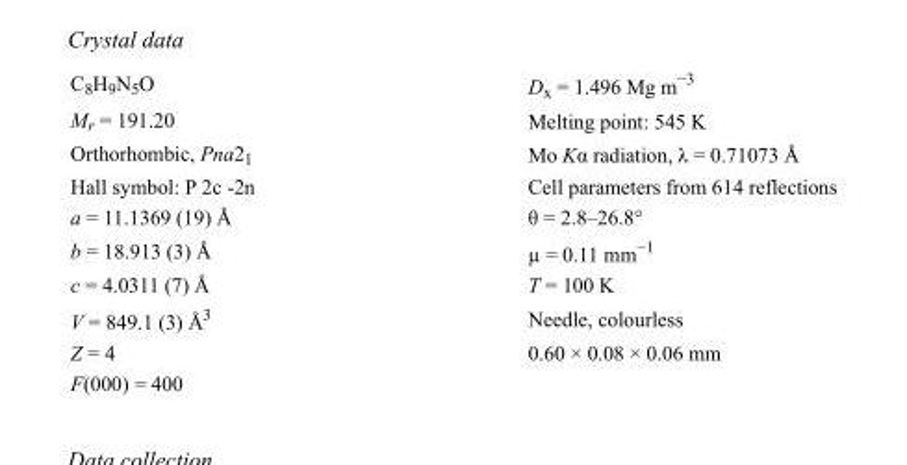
<table><tbody><tr><td>C<sub>8</sub>H<sub>9</sub>N<sub>5</sub>O</td><td>D<sub>x</sub> = 1.496 Mg m<sup>−3</sup></td></tr><tr><td>M<sub>r</sub> = 191.20</td><td>Melting point: 545 K</td></tr><tr><td>Orthorhombic, Pna2<sub>1</sub></td><td>Mo Kα radiation, λ = 0.71073 Å</td></tr><tr><td>Hall symbol: P 2c -2n</td><td>Cell parameters from 614 reflections</td></tr><tr><td>a = 11.1369 (19) Å</td><td>θ = 2.8–26.8°</td></tr><tr><td>b = 18.913 (3) Å</td><td>µ = 0.11 mm<sup>−1</sup></td></tr><tr><td>c = 4.0311 (7) Å</td><td>T = 100 K</td></tr><tr><td>V = 849.1 (3) Å<sup>3</sup></td><td>Needle, colourless</td></tr><tr><td>Z = 4</td><td>0.60 × 0.08 × 0.06 mm</td></tr><tr><td>F(000) = 400</td><td></td></tr></tbody></table>